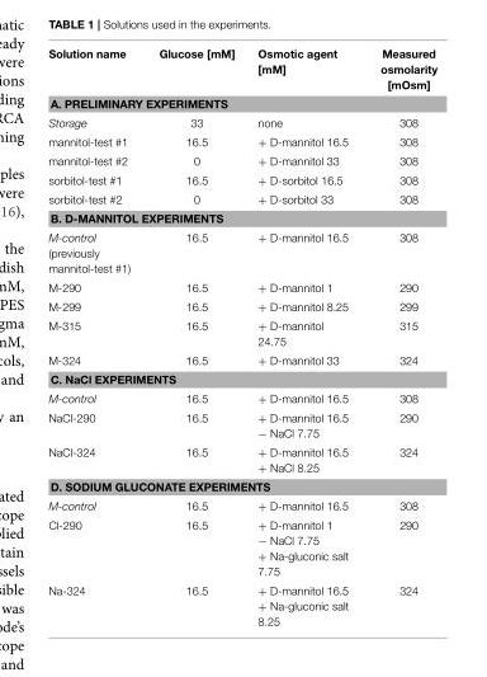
<table><thead><tr><td>Solution name</td><td>Glucose [mM]</td><td>Osmotic agent [mM]</td><td>Measured osmolarity [mOsm]</td></tr></thead><tbody><tr><td colspan="4">A. PRELIMINARY EXPERIMENTS</td></tr><tr><td>Storage</td><td>33</td><td>none</td><td>308</td></tr><tr><td>mannitol-test #1</td><td>16.5</td><td>+ D-mannitol 16.5</td><td>308</td></tr><tr><td>mannitol-test #2</td><td>0</td><td>+ D-mannitol 33</td><td>308</td></tr><tr><td>sorbitol-test #1</td><td>16.5</td><td>+ D-sorbitol 16.5</td><td>308</td></tr><tr><td>sorbitol-test #2</td><td>0</td><td>+ D-sorbitol 33</td><td>308</td></tr><tr><td colspan="4">B. D-MANNITOL EXPERIMENTS</td></tr><tr><td>M-control (previously mannitol-test #1)</td><td>16.5</td><td>+ D-mannitol 16.5</td><td>308</td></tr><tr><td>M-290</td><td>16.5</td><td>+ D-mannitol 1</td><td>290</td></tr><tr><td>M-299</td><td>16.5</td><td>+ D-mannitol 8.25</td><td>299</td></tr><tr><td>M-315</td><td>16.5</td><td>+ D-mannitol 24.75</td><td>315</td></tr><tr><td>M-324</td><td>16.5</td><td>+ D-mannitol 33</td><td>324</td></tr><tr><td colspan="4">C. NaCl EXPERIMENTS</td></tr><tr><td>M-control</td><td>16.5</td><td>+ D-mannitol 16.5</td><td>308</td></tr><tr><td>NaCl-290</td><td>16.5</td><td>+ D-mannitol 16.5 − NaCl 7.75</td><td>290</td></tr><tr><td>NaCl-324</td><td>16.5</td><td>+ D-mannitol 16.5 + NaCl 8.25</td><td>324</td></tr><tr><td colspan="4">D. SODIUM GLUCONATE EXPERIMENTS</td></tr><tr><td>M-control</td><td>16.5</td><td>+ D-mannitol 16.5</td><td>308</td></tr><tr><td>Cl-290</td><td>16.5</td><td>+ D-mannitol 1 − NaCl 7.75 + Na-gluconic salt 7.75</td><td>290</td></tr><tr><td>Na-324</td><td>16.5</td><td>+ D-mannitol 16.5 + Na-gluconic salt 8.25</td><td>324</td></tr></tbody></table>